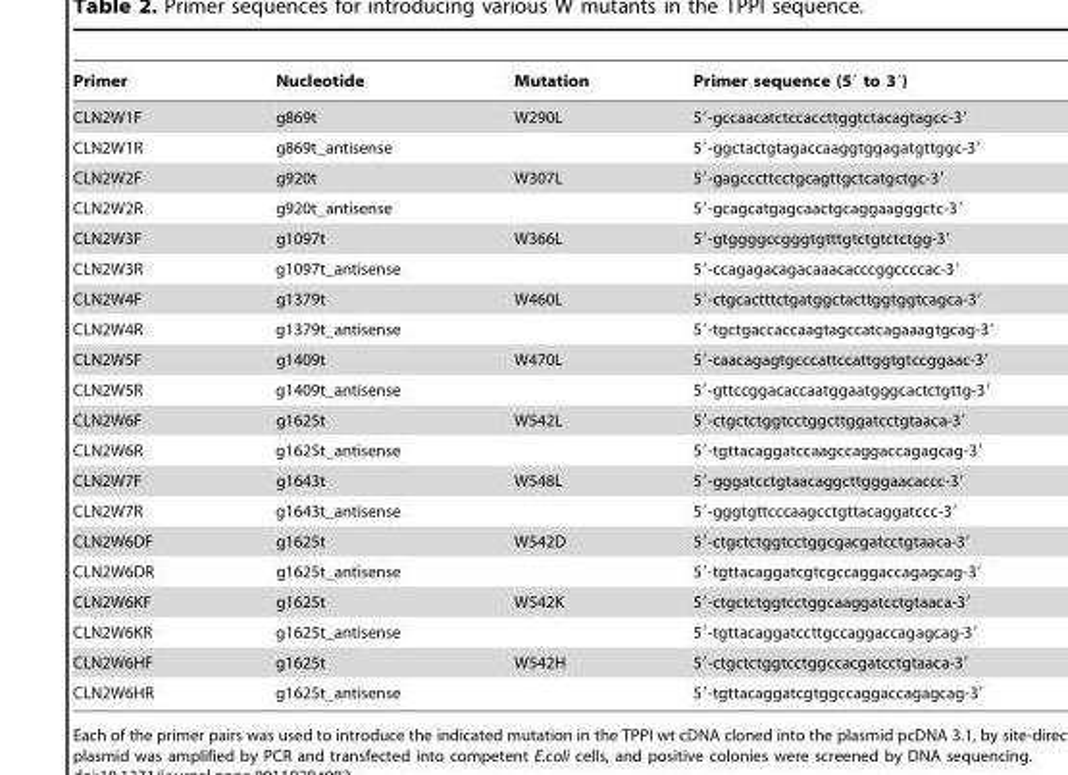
<table><thead><tr><td>Primer</td><td>Nucleotide</td><td>Mutation</td><td>Primer sequence (5′ to 3′)</td></tr></thead><tbody><tr><td>CLN2W1F</td><td>g869t</td><td>W290L</td><td>5′-gccaacatctccaccttggtctacagtagcc-3′</td></tr><tr><td>CLN2W1R</td><td>g869t_antisense</td><td></td><td>5′-ggctactgtagaccaaggtggagatgttggc-3′</td></tr><tr><td>CLN2W2F</td><td>g920t</td><td>W307L</td><td>5′-gagcccttcctgcagttgctcatgctgc-3′</td></tr><tr><td>CLN2W2R</td><td>g920t_antisense</td><td></td><td>5′-gcagcatgagcaactgcaggaagggctc-3′</td></tr><tr><td>CLN2W3F</td><td>g1097t</td><td>W366L</td><td>5′-gtggggccgggtgtttgtctgtctctgg-3′</td></tr><tr><td>CLN2W3R</td><td>g1097t_antisense</td><td></td><td>5′-ccagagacagacaaacacccggccccac-3′</td></tr><tr><td>CLN2W4F</td><td>g1379t</td><td>W460L</td><td>5′-ctgcactttctgatggctacttggtggtcagca-3′</td></tr><tr><td>CLN2W4R</td><td>g1379t_antisense</td><td></td><td>5′-tgctgaccaccaagtagccatcagaaagtgcag-3′</td></tr><tr><td>CLN2W5F</td><td>g1409t</td><td>W470L</td><td>5′-caacagagtgcccattccattggtgtccggaac-3′</td></tr><tr><td>CLN2W5R</td><td>g1409t_antisense</td><td></td><td>5′-gttccggacaccaatggaatgggcactctgttg-3′</td></tr><tr><td>CLN2W6F</td><td>g1625t</td><td>W542L</td><td>5′-ctgctctggtcctggcttggatcctgtaaca-3′</td></tr><tr><td>CLN2W6R</td><td>g1625t_antisense</td><td></td><td>5′-tgttacaggatccaagccaggaccagagcag-3′</td></tr><tr><td>CLN2W7F</td><td>g1643t</td><td>W548L</td><td>5′-gggatcctgtaacaggcttgggaacaccc-3′</td></tr><tr><td>CLN2W7R</td><td>g1643t_antisense</td><td></td><td>5′-gggtgttcccaagcctgttacaggatccc-3′</td></tr><tr><td>CLN2W6DF</td><td>g1625t</td><td>W542D</td><td>5′-ctgctctggtcctggcgacgatcctgtaaca-3′</td></tr><tr><td>CLN2W6DR</td><td>g1625t_antisense</td><td></td><td>5′-tgttacaggatcgtcgccaggaccagagcag-3′</td></tr><tr><td>CLN2W6KF</td><td>g1625t</td><td>W542K</td><td>5′-ctgctctggtcctggcaaggatcctgtaaca-3′</td></tr><tr><td>CLN2W6KR</td><td>g1625t_antisense</td><td></td><td>5′-tgttacaggatccttgccaggaccagagcag-3′</td></tr><tr><td>CLN2W6HF</td><td>g1625t</td><td>W542H</td><td>5′-ctgctctggtcctggccacgatcctgtaaca-3′</td></tr><tr><td>CLN2W6HR</td><td>g1625t_antisense</td><td></td><td>5′-tgttacaggatcgtggccaggaccagagcag-3′</td></tr></tbody></table>